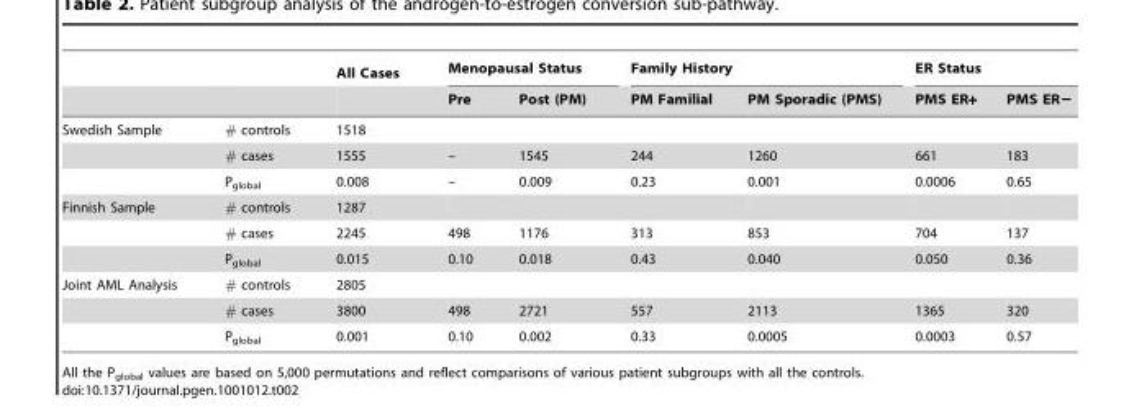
<table><thead><tr><td rowspan="2"></td><td rowspan="2"></td><td rowspan="2">All Cases</td><td colspan="2">Menopausal Status</td><td colspan="2">Family History</td><td colspan="2">ER Status</td></tr><tr><td>Pre</td><td>Post (PM)</td><td>PM Familial</td><td>PM Sporadic (PMS)</td><td>PMS ER+</td><td>PMS ER−</td></tr></thead><tbody><tr><td rowspan="3">Swedish Sample</td><td># controls</td><td>1518</td><td></td><td></td><td></td><td></td><td></td><td></td></tr><tr><td># cases</td><td>1555</td><td>–</td><td>1545</td><td>244</td><td>1260</td><td>661</td><td>183</td></tr><tr><td>P<sub>global</sub></td><td>0.008</td><td>–</td><td>0.009</td><td>0.23</td><td>0.001</td><td>0.0006</td><td>0.65</td></tr><tr><td rowspan="3">Finnish Sample</td><td># controls</td><td>1287</td><td></td><td></td><td></td><td></td><td></td><td></td></tr><tr><td># cases</td><td>2245</td><td>498</td><td>1176</td><td>313</td><td>853</td><td>704</td><td>137</td></tr><tr><td>P<sub>global</sub></td><td>0.015</td><td>0.10</td><td>0.018</td><td>0.43</td><td>0.040</td><td>0.050</td><td>0.36</td></tr><tr><td rowspan="3">Joint AML Analysis</td><td># controls</td><td>2805</td><td></td><td></td><td></td><td></td><td></td><td></td></tr><tr><td># cases</td><td>3800</td><td>498</td><td>2721</td><td>557</td><td>2113</td><td>1365</td><td>320</td></tr><tr><td>P<sub>global</sub></td><td>0.001</td><td>0.10</td><td>0.002</td><td>0.33</td><td>0.0005</td><td>0.0003</td><td>0.57</td></tr></tbody></table>